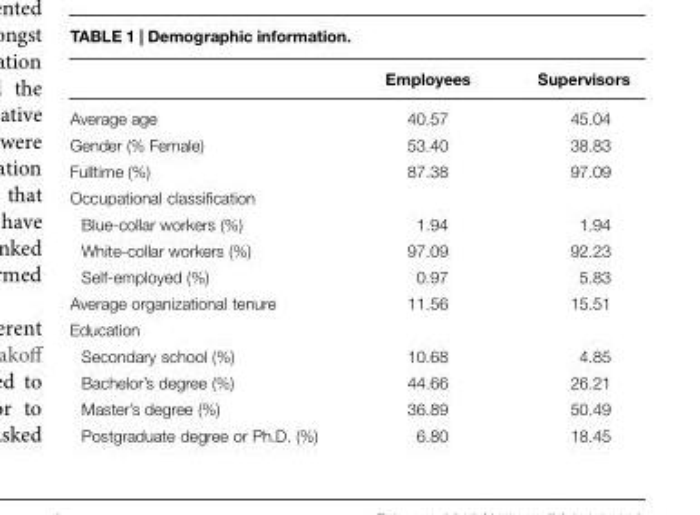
<table><thead><tr><td></td><td>Employees</td><td>Supervisors</td></tr></thead><tbody><tr><td>Average age</td><td>40.57</td><td>45.04</td></tr><tr><td>Gender (% Female)</td><td>53.40</td><td>38.83</td></tr><tr><td>Fulltime (%)</td><td>87.38</td><td>97.09</td></tr><tr><td colspan="3">Occupational classification</td></tr><tr><td>Blue-collar workers (%)</td><td>1.94</td><td>1.94</td></tr><tr><td>White-collar workers (%)</td><td>97.09</td><td>92.23</td></tr><tr><td>Self-employed (%)</td><td>0.97</td><td>5.83</td></tr><tr><td>Average organizational tenure</td><td>11.56</td><td>15.51</td></tr><tr><td colspan="3">Education</td></tr><tr><td>Secondary school (%)</td><td>10.68</td><td>4.85</td></tr><tr><td>Bachelor’s degree (%)</td><td>44.66</td><td>26.21</td></tr><tr><td>Master’s degree (%)</td><td>36.89</td><td>50.49</td></tr><tr><td>Postgraduate degree or Ph.D. (%)</td><td>6.80</td><td>18.45</td></tr></tbody></table>